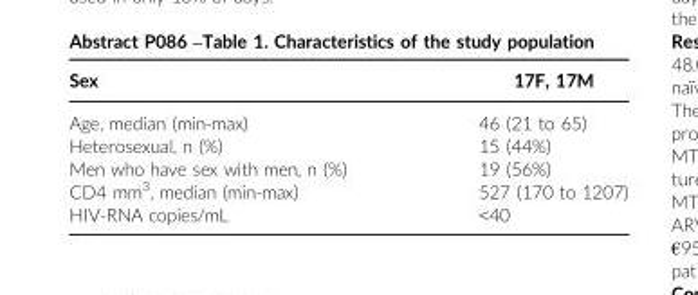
<table><thead><tr><td>Sex</td><td>17F, 17M</td></tr></thead><tbody><tr><td>Age, median (min-max)</td><td>46 (21 to 65)</td></tr><tr><td>Heterosexual, n (%)</td><td>15 (44%)</td></tr><tr><td>Men who have sex with men, n (%)</td><td>19 (56%)</td></tr><tr><td>CD4 mm<sup>3</sup>, median (min-max)</td><td>527 (170 to 1207)</td></tr><tr><td>HIV-RNA copies/mL</td><td>&lt;40</td></tr></tbody></table>